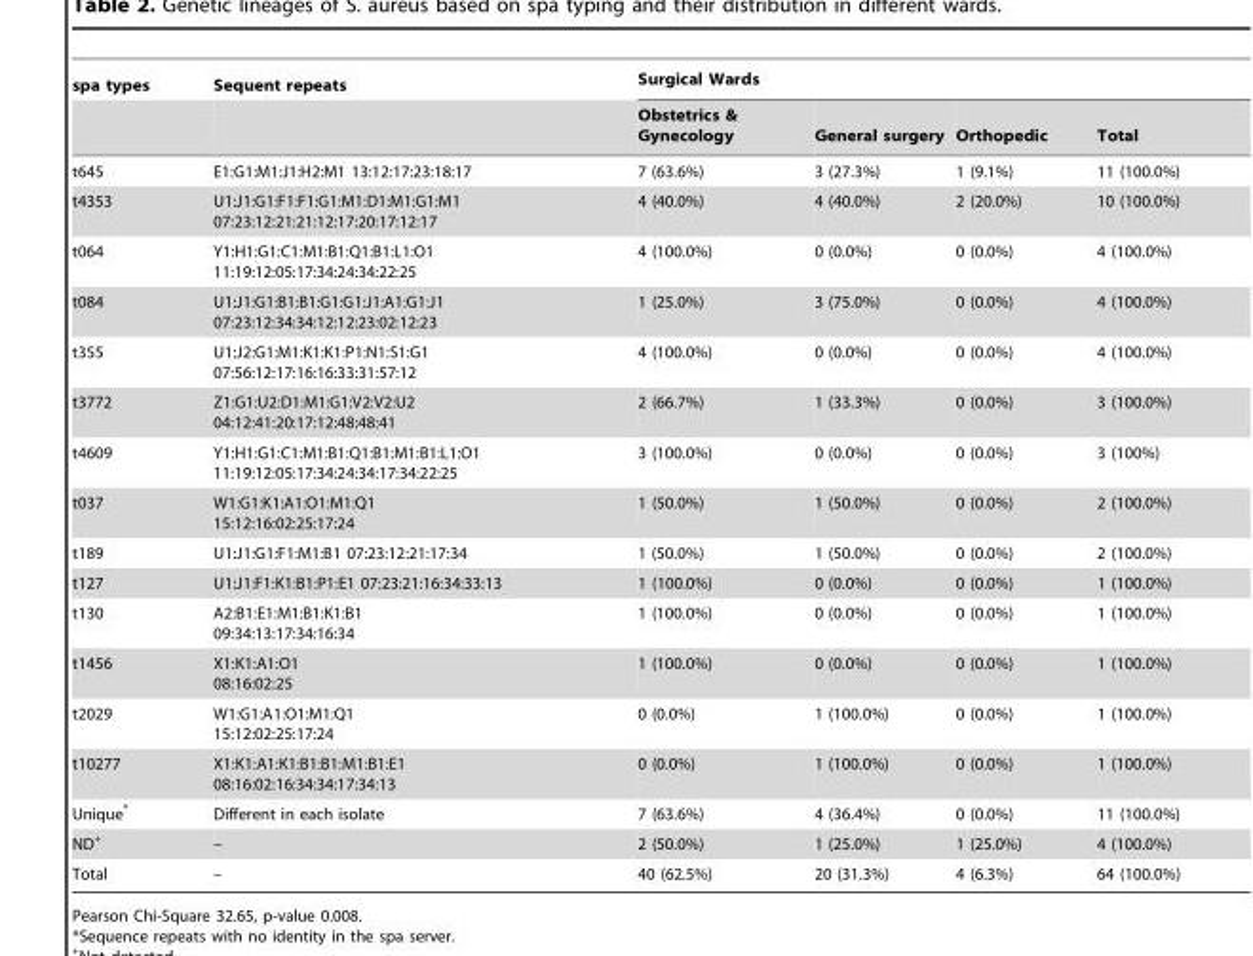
<table><thead><tr><td rowspan="2">spa types</td><td rowspan="2">Sequent repeats</td><td colspan="4">Surgical Wards</td></tr><tr><td>Obstetrics &amp; Gynecology</td><td>General surgery</td><td>Orthopedic</td><td>Total</td></tr></thead><tbody><tr><td>t645</td><td>E1:G1:M1:J1:H2:M1 13:12:17:23:18:17</td><td>7 (63.6%)</td><td>3 (27.3%)</td><td>1 (9.1%)</td><td>11 (100.0%)</td></tr><tr><td>t4353</td><td>U1:J1:G1:F1:F1:G1:M1:D1:M1:G1:M1 07:23:12:21:21:12:17:20:17:12:17</td><td>4 (40.0%)</td><td>4 (40.0%)</td><td>2 (20.0%)</td><td>10 (100.0%)</td></tr><tr><td>t064</td><td>Y1:H1:G1:C1:M1:B1:Q1:B1:L1:O1 11:19:12:05:17:34:24:34:22:25</td><td>4 (100.0%)</td><td>0 (0.0%)</td><td>0 (0.0%)</td><td>4 (100.0%)</td></tr><tr><td>t084</td><td>U1:J1:G1:B1:B1:G1:G1:J1:A1:G1:J1 07:23:12:34:34:12:12:23:02:12:23</td><td>1 (25.0%)</td><td>3 (75.0%)</td><td>0 (0.0%)</td><td>4 (100.0%)</td></tr><tr><td>t355</td><td>U1:J2:G1:M1:K1:K1:P1:N1:S1:G1 07:56:12:17:16:16:33:31:57:12</td><td>4 (100.0%)</td><td>0 (0.0%)</td><td>0 (0.0%)</td><td>4 (100.0%)</td></tr><tr><td>t3772</td><td>Z1:G1:U2:D1:M1:G1:V2:V2:U2 04:12:41:20:17:12:48:48:41</td><td>2 (66.7%)</td><td>1 (33.3%)</td><td>0 (0.0%)</td><td>3 (100.0%)</td></tr><tr><td>t4609</td><td>Y1:H1:G1:C1:M1:B1:Q1:B1:M1:B1:L1:O1 11:19:12:05:17:34:24:34:17:34:22:25</td><td>3 (100.0%)</td><td>0 (0.0%)</td><td>0 (0.0%)</td><td>3 (100%)</td></tr><tr><td>t037</td><td>W1:G1:K1:A1:O1:M1:Q1 15:12:16:02:25:17:24</td><td>1 (50.0%)</td><td>1 (50.0%)</td><td>0 (0.0%)</td><td>2 (100.0%)</td></tr><tr><td>t189</td><td>U1:J1:G1:F1:M1:B1 07:23:12:21:17:34</td><td>1 (50.0%)</td><td>1 (50.0%)</td><td>0 (0.0%)</td><td>2 (100.0%)</td></tr><tr><td>t127</td><td>U1:J1:F1:K1:B1:P1:E1 07:23:21:16:34:33:13</td><td>1 (100.0%)</td><td>0 (0.0%)</td><td>0 (0.0%)</td><td>1 (100.0%)</td></tr><tr><td>t130</td><td>A2:B1:E1:M1:B1:K1:B1 09:34:13:17:34:16:34</td><td>1 (100.0%)</td><td>0 (0.0%)</td><td>0 (0.0%)</td><td>1 (100.0%)</td></tr><tr><td>t1456</td><td>X1:K1:A1:O1 08:16:02:25</td><td>1 (100.0%)</td><td>0 (0.0%)</td><td>0 (0.0%)</td><td>1 (100.0%)</td></tr><tr><td>t2029</td><td>W1:G1:A1:O1:M1:Q1 15:12:02:25:17:24</td><td>0 (0.0%)</td><td>1 (100.0%)</td><td>0 (0.0%)</td><td>1 (100.0%)</td></tr><tr><td>t10277</td><td>X1:K1:A1:K1:B1:B1:M1:B1:E1 08:16:02:16:34:34:17:34:13</td><td>0 (0.0%)</td><td>1 (100.0%)</td><td>0 (0.0%)</td><td>1 (100.0%)</td></tr><tr><td>Unique*</td><td>Different in each isolate</td><td>7 (63.6%)</td><td>4 (36.4%)</td><td>0 (0.0%)</td><td>11 (100.0%)</td></tr><tr><td>ND+</td><td>–</td><td>2 (50.0%)</td><td>1 (25.0%)</td><td>1 (25.0%)</td><td>4 (100.0%)</td></tr><tr><td>Total</td><td>–</td><td>40 (62.5%)</td><td>20 (31.3%)</td><td>4 (6.3%)</td><td>64 (100.0%)</td></tr></tbody></table>